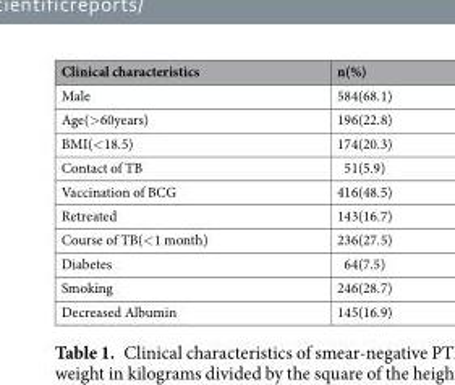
<table><thead><tr><td>Clinical characteristics</td><td>n(%)</td></tr></thead><tbody><tr><td>Male</td><td>584(68.1)</td></tr><tr><td>Age(&gt;60years)</td><td>196(22.8)</td></tr><tr><td>BMI(&lt;18.5)</td><td>174(20.3)</td></tr><tr><td>Contact of TB</td><td>51(5.9)</td></tr><tr><td>Vaccination of BCG</td><td>416(48.5)</td></tr><tr><td>Retreated</td><td>143(16.7)</td></tr><tr><td>Course of TB(&lt;1 month)</td><td>236(27.5)</td></tr><tr><td>Diabetes</td><td>64(7.5)</td></tr><tr><td>Smoking</td><td>246(28.7)</td></tr><tr><td>Decreased Albumin</td><td>145(16.9)</td></tr></tbody></table>